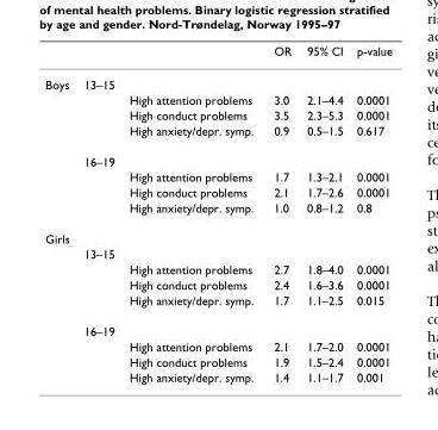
<table><thead><tr><td></td><td></td><td></td><td>OR</td><td>95% CI</td><td>p-value</td></tr></thead><tbody><tr><td rowspan="8">Boys</td><td>13–15</td><td></td><td></td><td></td><td></td></tr><tr><td></td><td>High attention problems</td><td>3.0</td><td>2.1–4.4</td><td>0.0001</td></tr><tr><td></td><td>High conduct problems</td><td>3.5</td><td>2.3–5.3</td><td>0.0001</td></tr><tr><td></td><td>High anxiety/depr. symp.</td><td>0.9</td><td>0.5–1.5</td><td>0.617</td></tr><tr><td>16–19</td><td></td><td></td><td></td><td></td></tr><tr><td></td><td>High attention problems</td><td>1.7</td><td>1.3–2.1</td><td>0.0001</td></tr><tr><td></td><td>High conduct problems</td><td>2.1</td><td>1.7–2.6</td><td>0.0001</td></tr><tr><td></td><td>High anxiety/depr. symp.</td><td>1.0</td><td>0.8–1.2</td><td>0.8</td></tr><tr><td colspan="6">Girls</td></tr><tr><td></td><td>13–15</td><td></td><td></td><td></td><td></td></tr><tr><td></td><td></td><td>High attention problems</td><td>2.7</td><td>1.8–4.0</td><td>0.0001</td></tr><tr><td></td><td></td><td>High conduct problems</td><td>2.4</td><td>1.6–3.6</td><td>0.0001</td></tr><tr><td></td><td></td><td>High anxiety/depr. symp.</td><td>1.7</td><td>1.1–2.5</td><td>0.015</td></tr><tr><td></td><td>16–19</td><td></td><td></td><td></td><td></td></tr><tr><td></td><td></td><td>High attention problems</td><td>2.1</td><td>1.7–2.0</td><td>0.0001</td></tr><tr><td></td><td></td><td>High conduct problems</td><td>1.9</td><td>1.5–2.4</td><td>0.0001</td></tr><tr><td></td><td></td><td>High anxiety/depr. symp.</td><td>1.4</td><td>1.1–1.7</td><td>0.001</td></tr></tbody></table>